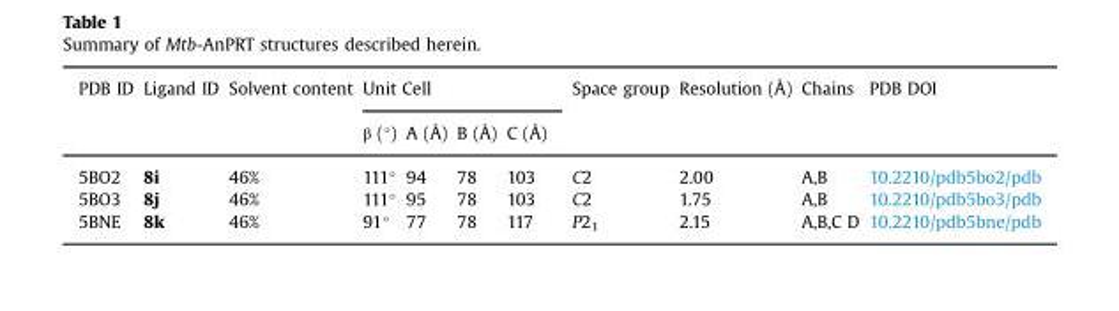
<table><thead><tr><td rowspan="2">PDB ID</td><td rowspan="2">Ligand ID</td><td rowspan="2">Solvent content</td><td colspan="4">Unit Cell</td><td rowspan="2">Space group</td><td rowspan="2">Resolution (Å)</td><td rowspan="2">Chains</td><td rowspan="2">PDB DOI</td></tr><tr><td>β (°)</td><td>A (Å)</td><td>B (Å)</td><td>C (Å)</td></tr></thead><tbody><tr><td>5BO2</td><td>8i</td><td>46%</td><td>111°</td><td>94</td><td>78</td><td>103</td><td>C2</td><td>2.00</td><td>A,B</td><td>10.2210/pdb5bo2/pdb</td></tr><tr><td>5BO3</td><td>8j</td><td>46%</td><td>111°</td><td>95</td><td>78</td><td>103</td><td>C2</td><td>1.75</td><td>A,B</td><td>10.2210/pdb5bo3/pdb</td></tr><tr><td>5BNE</td><td>8k</td><td>46%</td><td>91°</td><td>77</td><td>78</td><td>117</td><td>P2<sub>1</sub></td><td>2.15</td><td>A,B,C D</td><td>10.2210/pdb5bne/pdb</td></tr></tbody></table>